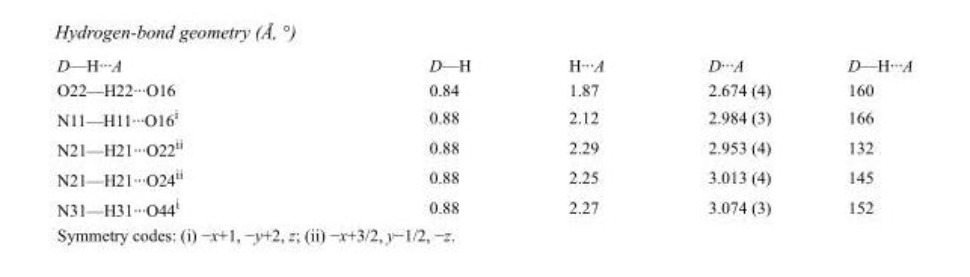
<table><tbody><tr><td>D—H···A</td><td>D—H</td><td>H···A</td><td>D···A</td><td>D—H···A</td></tr><tr><td>O22—H22···O16</td><td>0.84</td><td>1.87</td><td>2.674 (4)</td><td>160</td></tr><tr><td>N11—H11···O16<sup>i</sup></td><td>0.88</td><td>2.12</td><td>2.984 (3)</td><td>166</td></tr><tr><td>N21—H21···O22<sup>ii</sup></td><td>0.88</td><td>2.29</td><td>2.953 (4)</td><td>132</td></tr><tr><td>N21—H21···O24<sup>ii</sup></td><td>0.88</td><td>2.25</td><td>3.013 (4)</td><td>145</td></tr><tr><td>N31—H31···O44<sup>i</sup></td><td>0.88</td><td>2.27</td><td>3.074 (3)</td><td>152</td></tr></tbody></table>